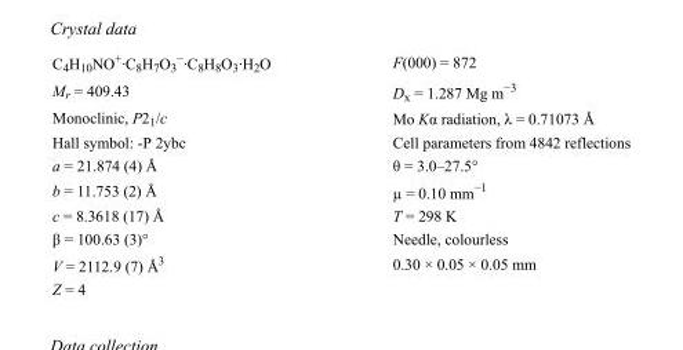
<table><tbody><tr><td>C<sub>4</sub>H<sub>10</sub>NO<sup>+</sup>·C<sub>8</sub>H<sub>7</sub>O<sub>3</sub> <sup>−</sup>·C<sub>8</sub>H<sub>8</sub>O<sub>3</sub>·H<sub>2</sub>O</td><td>F(000) = 872</td></tr><tr><td>M<sub>r</sub> = 409.43</td><td>D<sub>x</sub> = 1.287 Mg m<sup>−3</sup></td></tr><tr><td>Monoclinic, P2<sub>1</sub>/c</td><td>Mo Kα radiation, λ = 0.71073 Å</td></tr><tr><td>Hall symbol: -P 2ybc</td><td>Cell parameters from 4842 reflections</td></tr><tr><td>a = 21.874 (4) Å</td><td>θ = 3.0–27.5°</td></tr><tr><td>b = 11.753 (2) Å</td><td>µ = 0.10 mm<sup>−1</sup></td></tr><tr><td>c = 8.3618 (17) Å</td><td>T = 298 K</td></tr><tr><td>β = 100.63 (3)°</td><td>Needle, colourless</td></tr><tr><td>V = 2112.9 (7) Å<sup>3</sup></td><td>0.30 × 0.05 × 0.05 mm</td></tr><tr><td>Z = 4</td><td></td></tr></tbody></table>